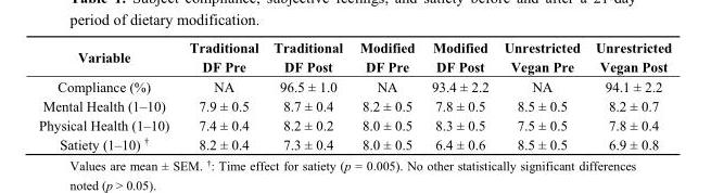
<table><thead><tr><td>Variable</td><td>Traditional DF Pre</td><td>Traditional DF Post</td><td>Modified DF Pre</td><td>Modified DF Post</td><td>Unrestricted Vegan Pre</td><td>Unrestricted Vegan Post</td></tr></thead><tbody><tr><td>Compliance (%)</td><td>NA</td><td>96.5 ± 1.0</td><td>NA</td><td>93.4 ± 2.2</td><td>NA</td><td>94.1 ± 2.2</td></tr><tr><td>Mental Health (1–10)</td><td>7.9 ± 0.5</td><td>8.7 ± 0.4</td><td>8.2 ± 0.5</td><td>7.8 ± 0.5</td><td>8.5 ± 0.5</td><td>8.2 ± 0.7</td></tr><tr><td>Physical Health (1–10)</td><td>7.4 ± 0.4</td><td>8.2 ± 0.2</td><td>8.0 ± 0.5</td><td>8.3 ± 0.5</td><td>7.5 ± 0.5</td><td>7.8 ± 0.4</td></tr><tr><td>Satiety (1–10) <sup>†</sup></td><td>8.2 ± 0.4</td><td>7.3 ± 0.4</td><td>8.0 ± 0.5</td><td>6.4 ± 0.6</td><td>8.5 ± 0.5</td><td>6.9 ± 0.8</td></tr></tbody></table>